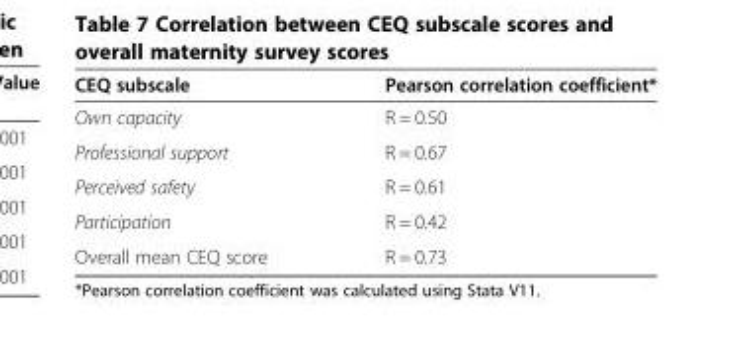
<table><thead><tr><td>CEQ subscale</td><td>Pearson correlation coefficient*</td></tr></thead><tbody><tr><td>Own capacity</td><td>R = 0.50</td></tr><tr><td>Professional support</td><td>R = 0.67</td></tr><tr><td>Perceived safety</td><td>R = 0.61</td></tr><tr><td>Participation</td><td>R = 0.42</td></tr><tr><td>Overall mean CEQ score</td><td>R = 0.73</td></tr></tbody></table>